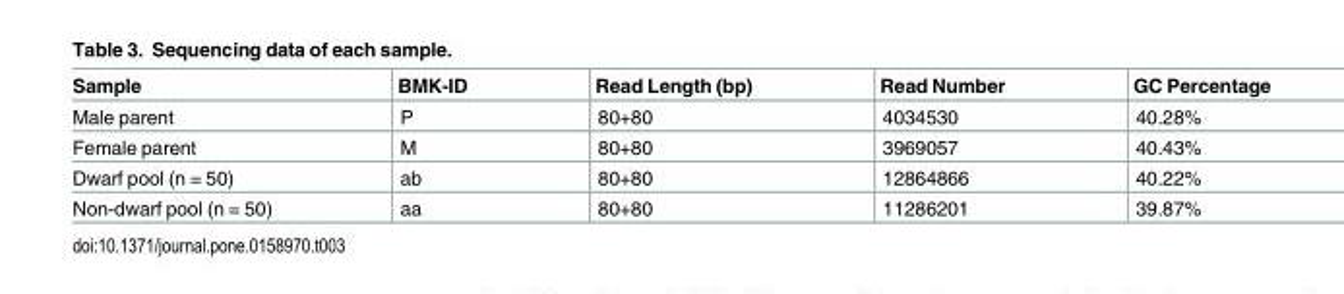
<table><thead><tr><td>Sample</td><td>BMK-ID</td><td>Read Length (bp)</td><td>Read Number</td><td>GC Percentage</td></tr></thead><tbody><tr><td>Male parent</td><td>P</td><td>80+80</td><td>4034530</td><td>40.28%</td></tr><tr><td>Female parent</td><td>M</td><td>80+80</td><td>3969057</td><td>40.43%</td></tr><tr><td>Dwarf pool (n = 50)</td><td>ab</td><td>80+80</td><td>12864866</td><td>40.22%</td></tr><tr><td>Non-dwarf pool (n = 50)</td><td>aa</td><td>80+80</td><td>11286201</td><td>39.87%</td></tr></tbody></table>